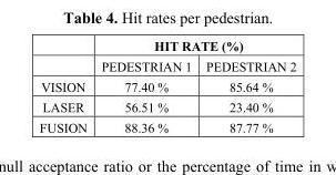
<table><thead><tr><td rowspan="2"></td><td colspan="2">HIT RATE (%)</td></tr><tr><td>PEDESTRIAN 1</td><td>PEDESTRIAN 2</td></tr></thead><tbody><tr><td>VISION</td><td>77.40 %</td><td>85.64 %</td></tr><tr><td>LASER</td><td>56.51 %</td><td>23.40 %</td></tr><tr><td>FUSION</td><td>88.36 %</td><td>87.77 %</td></tr></tbody></table>